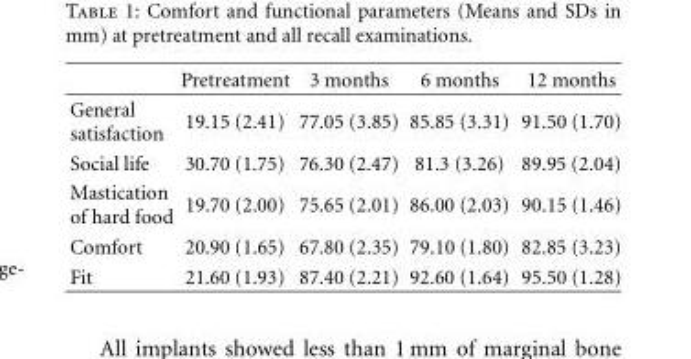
<table><thead><tr><td></td><td>Pretreatment</td><td>3 months</td><td>6 months</td><td>12 months</td></tr></thead><tbody><tr><td>General satisfaction</td><td>19.15 (2.41)</td><td>77.05 (3.85)</td><td>85.85 (3.31)</td><td>91.50 (1.70)</td></tr><tr><td>Social life</td><td>30.70 (1.75)</td><td>76.30 (2.47)</td><td>81.3 (3.26)</td><td>89.95 (2.04)</td></tr><tr><td>Mastication of hard food</td><td>19.70 (2.00)</td><td>75.65 (2.01)</td><td>86.00 (2.03)</td><td>90.15 (1.46)</td></tr><tr><td>Comfort</td><td>20.90 (1.65)</td><td>67.80 (2.35)</td><td>79.10 (1.80)</td><td>82.85 (3.23)</td></tr><tr><td>Fit</td><td>21.60 (1.93)</td><td>87.40 (2.21)</td><td>92.60 (1.64)</td><td>95.50 (1.28)</td></tr></tbody></table>